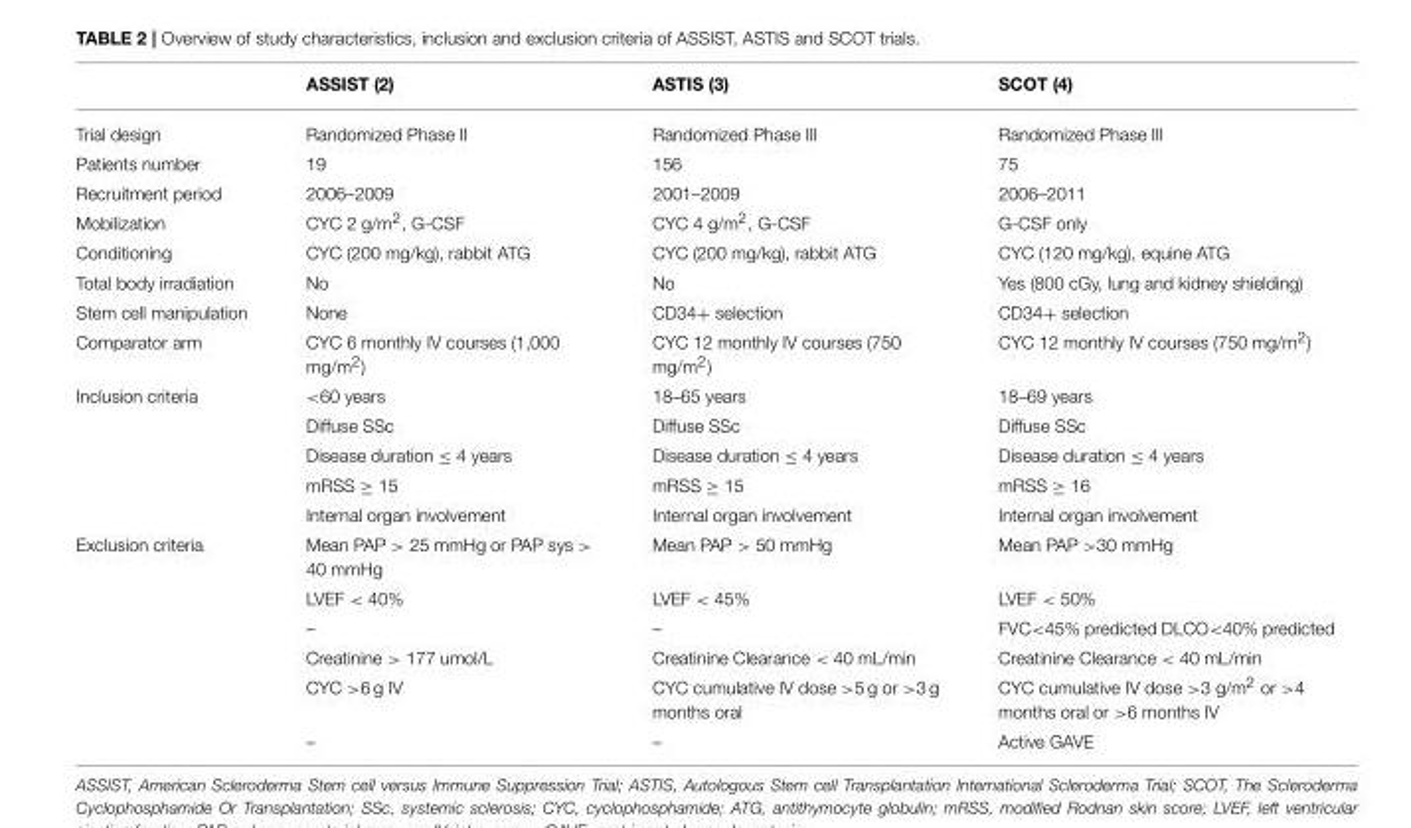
<table><thead><tr><td></td><td>ASSIST (2)</td><td>ASTIS (3)</td><td>SCOT (4)</td></tr></thead><tbody><tr><td>Trial design</td><td>Randomized Phase II</td><td>Randomized Phase III</td><td>Randomized Phase III</td></tr><tr><td>Patients number</td><td>19</td><td>156</td><td>75</td></tr><tr><td>Recruitment period</td><td>2006–2009</td><td>2001–2009</td><td>2006–2011</td></tr><tr><td>Mobilization</td><td>CYC 2 g/m<sup>2</sup>, G-CSF</td><td>CYC 4 g/m<sup>2</sup>, G-CSF</td><td>G-CSF only</td></tr><tr><td>Conditioning</td><td>CYC (200 mg/kg), rabbit ATG</td><td>CYC (200 mg/kg), rabbit ATG</td><td>CYC (120 mg/kg), equine ATG</td></tr><tr><td>Total body irradiation</td><td>No</td><td>No</td><td>Yes (800 cGy, lung and kidney shielding)</td></tr><tr><td>Stem cell manipulation</td><td>None</td><td>CD34+ selection</td><td>CD34+ selection</td></tr><tr><td>Comparator arm</td><td>CYC 6 monthly IV courses (1,000 mg/m<sup>2</sup>)</td><td>CYC 12 monthly IV courses (750 mg/m<sup>2</sup>)</td><td>CYC 12 monthly IV courses (750 mg/m<sup>2</sup>)</td></tr><tr><td rowspan="5">Inclusion criteria</td><td>&lt;60 years</td><td>18–65 years</td><td>18–69 years</td></tr><tr><td>Diffuse SSc</td><td>Diffuse SSc</td><td>Diffuse SSc</td></tr><tr><td>Disease duration ≤ 4 years</td><td>Disease duration ≤ 4 years</td><td>Disease duration ≤ 4 years</td></tr><tr><td>mRSS ≥ 15</td><td>mRSS ≥ 15</td><td>mRSS ≥ 16</td></tr><tr><td>Internal organ involvement</td><td>Internal organ involvement</td><td>Internal organ involvement</td></tr><tr><td rowspan="6">Exclusion criteria</td><td>Mean PAP &gt; 25 mmHg or PAP sys &gt; 40 mmHg</td><td>Mean PAP &gt; 50 mmHg</td><td>Mean PAP &gt;30 mmHg</td></tr><tr><td>LVEF &lt; 40%</td><td>LVEF &lt; 45%</td><td>LVEF &lt; 50%</td></tr><tr><td>–</td><td>–</td><td>FVC&lt;45% predicted DLCO&lt;40% predicted</td></tr><tr><td>Creatinine &gt; 177 umol/L</td><td>Creatinine Clearance &lt; 40 mL/min</td><td>Creatinine Clearance &lt; 40 mL/min</td></tr><tr><td>CYC &gt;6 g IV</td><td>CYC cumulative IV dose &gt;5 g or &gt;3 g months oral</td><td>CYC cumulative IV dose &gt;3 g/m<sup>2</sup> or &gt;4 months oral or &gt;6 months IV</td></tr><tr><td>–</td><td>–</td><td>Active GAVE</td></tr></tbody></table>